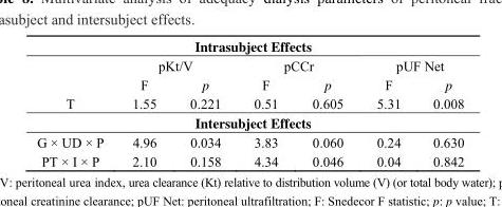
<table><tbody><tr><td colspan="7">Intrasubject Effects</td></tr><tr><td></td><td colspan="2">pKt/V</td><td colspan="2">pCCr</td><td colspan="2">pUF Net</td></tr><tr><td></td><td>F</td><td>p</td><td>F</td><td>p</td><td>F</td><td>p</td></tr><tr><td>T</td><td>1.55</td><td>0.221</td><td>0.51</td><td>0.605</td><td>5.31</td><td>0.008</td></tr><tr><td colspan="7">Intersubject Effects</td></tr><tr><td>G × UD × P</td><td>4.96</td><td>0.034</td><td>3.83</td><td>0.060</td><td>0.24</td><td>0.630</td></tr><tr><td>PT × I × P</td><td>2.10</td><td>0.158</td><td>4.34</td><td>0.046</td><td>0.04</td><td>0.842</td></tr></tbody></table>